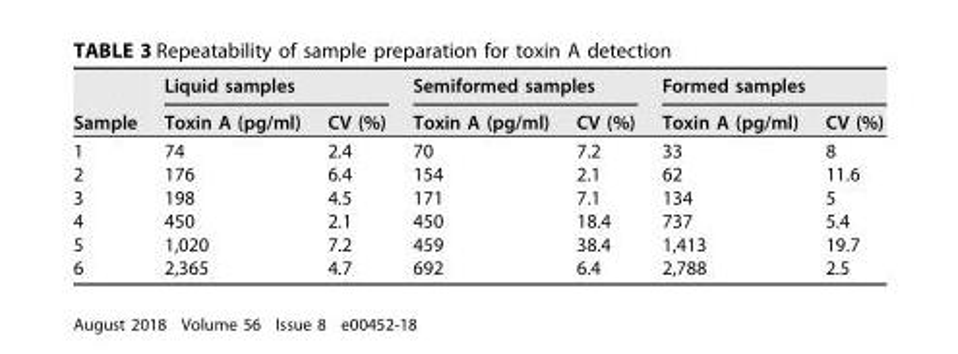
<table><thead><tr><td rowspan="2">Sample</td><td colspan="2">Liquid samples</td><td colspan="2">Semiformed samples</td><td colspan="2">Formed samples</td></tr><tr><td>Toxin A (pg/ml)</td><td>CV (%)</td><td>Toxin A (pg/ml)</td><td>CV (%)</td><td>Toxin A (pg/ml)</td><td>CV (%)</td></tr></thead><tbody><tr><td>1</td><td>74</td><td>2.4</td><td>70</td><td>7.2</td><td>33</td><td>8</td></tr><tr><td>2</td><td>176</td><td>6.4</td><td>154</td><td>2.1</td><td>62</td><td>11.6</td></tr><tr><td>3</td><td>198</td><td>4.5</td><td>171</td><td>7.1</td><td>134</td><td>5</td></tr><tr><td>4</td><td>450</td><td>2.1</td><td>450</td><td>18.4</td><td>737</td><td>5.4</td></tr><tr><td>5</td><td>1,020</td><td>7.2</td><td>459</td><td>38.4</td><td>1,413</td><td>19.7</td></tr><tr><td>6</td><td>2,365</td><td>4.7</td><td>692</td><td>6.4</td><td>2,788</td><td>2.5</td></tr></tbody></table>